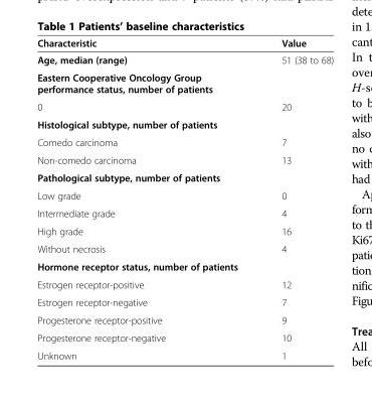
<table><thead><tr><td>Characteristic</td><td>Value</td></tr></thead><tbody><tr><td>Age, median (range)</td><td>51 (38 to 68)</td></tr><tr><td colspan="2">Eastern Cooperative Oncology Group performance status, number of patients</td></tr><tr><td>0</td><td>20</td></tr><tr><td colspan="2">Histological subtype, number of patients</td></tr><tr><td>Comedo carcinoma</td><td>7</td></tr><tr><td>Non-comedo carcinoma</td><td>13</td></tr><tr><td colspan="2">Pathological subtype, number of patients</td></tr><tr><td>Low grade</td><td>0</td></tr><tr><td>Intermediate grade</td><td>4</td></tr><tr><td>High grade</td><td>16</td></tr><tr><td>Without necrosis</td><td>4</td></tr><tr><td colspan="2">Hormone receptor status, number of patients</td></tr><tr><td>Estrogen receptor-positive</td><td>12</td></tr><tr><td>Estrogen receptor-negative</td><td>7</td></tr><tr><td>Progesterone receptor-positive</td><td>9</td></tr><tr><td>Progesterone receptor-negative</td><td>10</td></tr><tr><td>Unknown</td><td>1</td></tr></tbody></table>